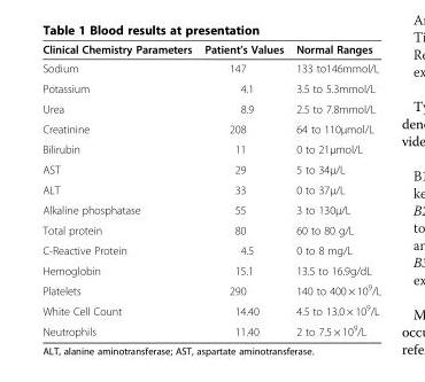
<table><thead><tr><td>Clinical Chemistry Parameters</td><td>Patient’s Values</td><td>Normal Ranges</td></tr></thead><tbody><tr><td>Sodium</td><td>147</td><td>133 to146mmol/L</td></tr><tr><td>Potassium</td><td>4.1</td><td>3.5 to 5.3mmol/L</td></tr><tr><td>Urea</td><td>8.9</td><td>2.5 to 7.8mmol/L</td></tr><tr><td>Creatinine</td><td>208</td><td>64 to 110μmol/L</td></tr><tr><td>Bilirubin</td><td>11</td><td>0 to 21μmol/L</td></tr><tr><td>AST</td><td>29</td><td>5 to 34μ/L</td></tr><tr><td>ALT</td><td>33</td><td>0 to 37μ/L</td></tr><tr><td>Alkaline phosphatase</td><td>55</td><td>3 to 130μ/L</td></tr><tr><td>Total protein</td><td>80</td><td>60 to 80 g/L</td></tr><tr><td>C-Reactive Protein</td><td>4.5</td><td>0 to 8 mg/L</td></tr><tr><td>Hemoglobin</td><td>15.1</td><td>13.5 to 16.9g/dL</td></tr><tr><td>Platelets</td><td>290</td><td>140 to 400 × 10<sup>9</sup>/L</td></tr><tr><td>White Cell Count</td><td>14.40</td><td>4.5 to 13.0 × 10<sup>9</sup>/L</td></tr><tr><td>Neutrophils</td><td>11.40</td><td>2 to 7.5 × 10<sup>9</sup>/L</td></tr></tbody></table>